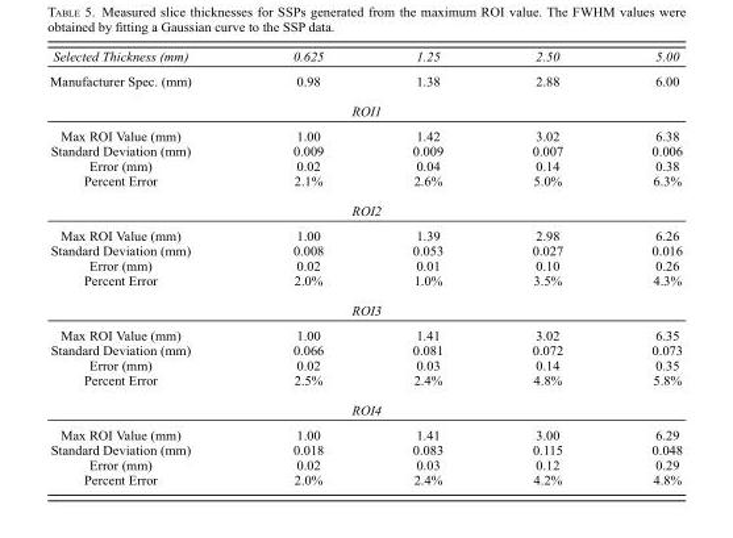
<table><thead><tr><td>Selected Thickness (mm)</td><td>0.625</td><td>1.25</td><td>2.50</td><td>5.00</td></tr></thead><tbody><tr><td rowspan="2">Manufacturer Spec. (mm)</td><td>0.98</td><td>1.38</td><td>2.88</td><td>6.00</td></tr><tr><td colspan="2">ROI1</td><td></td><td></td></tr><tr><td>Max ROI Value (mm)</td><td>1.00</td><td>1.42</td><td>3.02</td><td>6.38</td></tr><tr><td>Standard Deviation (mm)</td><td>0.009</td><td>0.009</td><td>0.007</td><td>0.006</td></tr><tr><td>Error (mm)</td><td>0.02</td><td>0.04</td><td>0.14</td><td>0.38</td></tr><tr><td rowspan="2">Percent Error</td><td>2.1%</td><td>2.6%</td><td>5.0%</td><td>6.3%</td></tr><tr><td colspan="2">ROI2</td><td></td><td></td></tr><tr><td>Max ROI Value (mm)</td><td>1.00</td><td>1.39</td><td>2.98</td><td>6.26</td></tr><tr><td>Standard Deviation (mm)</td><td>0.008</td><td>0.053</td><td>0.027</td><td>0.016</td></tr><tr><td>Error (mm)</td><td>0.02</td><td>0.01</td><td>0.10</td><td>0.26</td></tr><tr><td rowspan="2">Percent Error</td><td>2.0%</td><td>1.0%</td><td>3.5%</td><td>4.3%</td></tr><tr><td colspan="2">ROI3</td><td></td><td></td></tr><tr><td>Max ROI Value (mm)</td><td>1.00</td><td>1.41</td><td>3.02</td><td>6.35</td></tr><tr><td>Standard Deviation (mm)</td><td>0.066</td><td>0.081</td><td>0.072</td><td>0.073</td></tr><tr><td>Error (mm)</td><td>0.02</td><td>0.03</td><td>0.14</td><td>0.35</td></tr><tr><td rowspan="2">Percent Error</td><td>2.5%</td><td>2.4%</td><td>4.8%</td><td>5.8%</td></tr><tr><td colspan="2">ROI4</td><td></td><td></td></tr><tr><td>Max ROI Value (mm)</td><td>1.00</td><td>1.41</td><td>3.00</td><td>6.29</td></tr><tr><td>Standard Deviation (mm)</td><td>0.018</td><td>0.083</td><td>0.115</td><td>0.048</td></tr><tr><td>Error (mm)</td><td>0.02</td><td>0.03</td><td>0.12</td><td>0.29</td></tr><tr><td>Percent Error</td><td>2.0%</td><td>2.4%</td><td>4.2%</td><td>4.8%</td></tr></tbody></table>